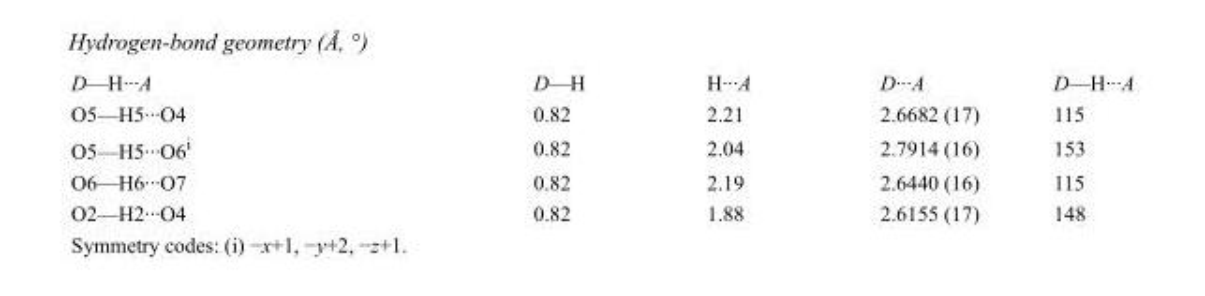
<table><tbody><tr><td>D—H···A</td><td>D—H</td><td>H···A</td><td>D···A</td><td>D—H···A</td></tr><tr><td>O5—H5···O4</td><td>0.82</td><td>2.21</td><td>2.6682 (17)</td><td>115</td></tr><tr><td>O5—H5···O6<sup>i</sup></td><td>0.82</td><td>2.04</td><td>2.7914 (16)</td><td>153</td></tr><tr><td>O6—H6···O7</td><td>0.82</td><td>2.19</td><td>2.6440 (16)</td><td>115</td></tr><tr><td>O2—H2···O4</td><td>0.82</td><td>1.88</td><td>2.6155 (17)</td><td>148</td></tr></tbody></table>